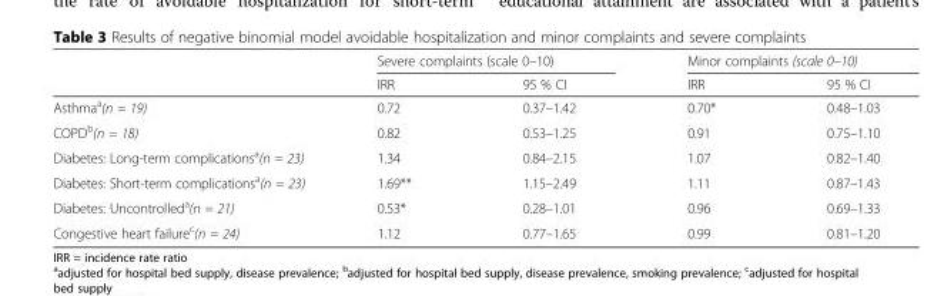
<table><thead><tr><td rowspan="2"></td><td colspan="2">Severe complaints (scale 0–10)</td><td colspan="2">Minor complaints (scale 0–10)</td></tr><tr><td>IRR</td><td>95 % CI</td><td>IRR</td><td>95 % CI</td></tr></thead><tbody><tr><td>Asthma<sup>a</sup>(n = 19)</td><td>0.72</td><td>0.37–1.42</td><td>0.70*</td><td>0.48–1.03</td></tr><tr><td>COPD<sup>b</sup>(n = 18)</td><td>0.82</td><td>0.53–1.25</td><td>0.91</td><td>0.75–1.10</td></tr><tr><td>Diabetes: Long-term complications<sup>a</sup>(n = 23)</td><td>1.34</td><td>0.84–2.15</td><td>1.07</td><td>0.82–1.40</td></tr><tr><td>Diabetes: Short-term complications<sup>a</sup>(n = 23)</td><td>1.69**</td><td>1.15–2.49</td><td>1.11</td><td>0.87–1.43</td></tr><tr><td>Diabetes: Uncontrolled<sup>a</sup>(n = 21)</td><td>0.53*</td><td>0.28–1.01</td><td>0.96</td><td>0.69–1.33</td></tr><tr><td>Congestive heart failure<sup>c</sup>(n = 24)</td><td>1.12</td><td>0.77–1.65</td><td>0.99</td><td>0.81–1.20</td></tr></tbody></table>